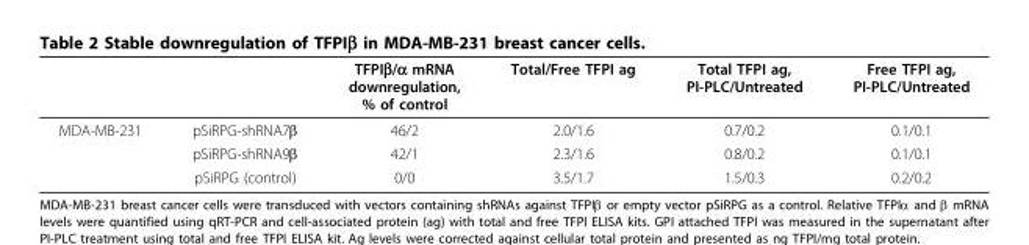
<table><thead><tr><td></td><td></td><td>TFPIβ/α mRNA downregulation, % of control</td><td>Total/Free TFPI ag</td><td>Total TFPI ag, PI-PLC/Untreated</td><td>Free TFPI ag, PI-PLC/Untreated</td></tr></thead><tbody><tr><td rowspan="3">MDA-MB-231</td><td>pSiRPG-shRNA7β</td><td>46/2</td><td>2.0/1.6</td><td>0.7/0.2</td><td>0.1/0.1</td></tr><tr><td>pSiRPG-shRNA9β</td><td>42/1</td><td>2.3/1.6</td><td>0.8/0.2</td><td>0.1/0.1</td></tr><tr><td>pSiRPG (control)</td><td>0/0</td><td>3.5/1.7</td><td>1.5/0.3</td><td>0.2/0.2</td></tr></tbody></table>